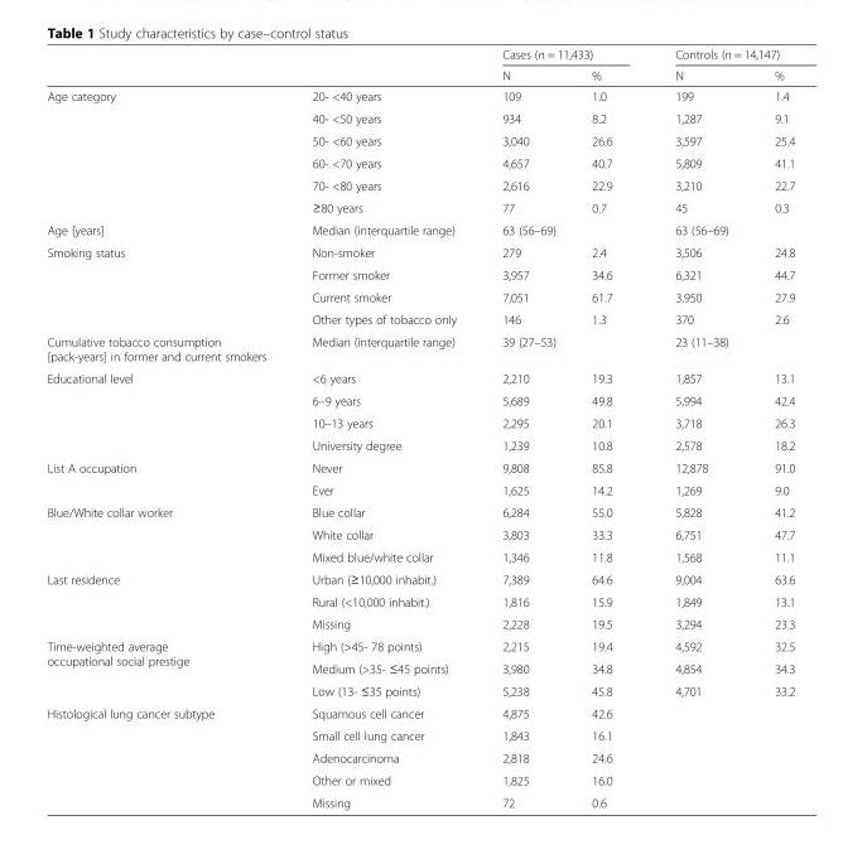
<table><thead><tr><td rowspan="2"></td><td rowspan="2"></td><td colspan="2">Cases (n = 11,433)</td><td colspan="2">Controls (n = 14,147)</td></tr><tr><td>N</td><td>%</td><td>N</td><td>%</td></tr></thead><tbody><tr><td rowspan="6">Age category</td><td>20- &lt;40 years</td><td>109</td><td>1.0</td><td>199</td><td>1.4</td></tr><tr><td>40- &lt;50 years</td><td>934</td><td>8.2</td><td>1,287</td><td>9.1</td></tr><tr><td>50- &lt;60 years</td><td>3,040</td><td>26.6</td><td>3,597</td><td>25.4</td></tr><tr><td>60- &lt;70 years</td><td>4,657</td><td>40.7</td><td>5,809</td><td>41.1</td></tr><tr><td>70- &lt;80 years</td><td>2,616</td><td>22.9</td><td>3,210</td><td>22.7</td></tr><tr><td>≥80 years</td><td>77</td><td>0.7</td><td>45</td><td>0.3</td></tr><tr><td>Age [years]</td><td>Median (interquartile range)</td><td colspan="2">63 (56–69)</td><td colspan="2">63 (56–69)</td></tr><tr><td rowspan="4">Smoking status</td><td>Non-smoker</td><td>279</td><td>2.4</td><td>3,506</td><td>24.8</td></tr><tr><td>Former smoker</td><td>3,957</td><td>34.6</td><td>6,321</td><td>44.7</td></tr><tr><td>Current smoker</td><td>7,051</td><td>61.7</td><td>3,950</td><td>27.9</td></tr><tr><td>Other types of tobacco only</td><td>146</td><td>1.3</td><td>370</td><td>2.6</td></tr><tr><td>Cumulative tobacco consumption [pack-years] in former and current smokers</td><td>Median (interquartile range)</td><td colspan="2">39 (27–53)</td><td colspan="2">23 (11–38)</td></tr><tr><td rowspan="4">Educational level</td><td>&lt;6 years</td><td>2,210</td><td>19.3</td><td>1,857</td><td>13.1</td></tr><tr><td>6–9 years</td><td>5,689</td><td>49.8</td><td>5,994</td><td>42.4</td></tr><tr><td>10–13 years</td><td>2,295</td><td>20.1</td><td>3,718</td><td>26.3</td></tr><tr><td>University degree</td><td>1,239</td><td>10.8</td><td>2,578</td><td>18.2</td></tr><tr><td rowspan="2">List A occupation</td><td>Never</td><td>9,808</td><td>85.8</td><td>12,878</td><td>91.0</td></tr><tr><td>Ever</td><td>1,625</td><td>14.2</td><td>1,269</td><td>9.0</td></tr><tr><td rowspan="3">Blue/White collar worker</td><td>Blue collar</td><td>6,284</td><td>55.0</td><td>5,828</td><td>41.2</td></tr><tr><td>White collar</td><td>3,803</td><td>33.3</td><td>6,751</td><td>47.7</td></tr><tr><td>Mixed blue/white collar</td><td>1,346</td><td>11.8</td><td>1,568</td><td>11.1</td></tr><tr><td rowspan="3">Last residence</td><td>Urban (≥10,000 inhabit.)</td><td>7,389</td><td>64.6</td><td>9,004</td><td>63.6</td></tr><tr><td>Rural (&lt;10,000 inhabit.)</td><td>1,816</td><td>15.9</td><td>1,849</td><td>13.1</td></tr><tr><td>Missing</td><td>2,228</td><td>19.5</td><td>3,294</td><td>23.3</td></tr><tr><td rowspan="3">Time-weighted average occupational social prestige</td><td>High (&gt;45- 78 points)</td><td>2,215</td><td>19.4</td><td>4,592</td><td>32.5</td></tr><tr><td>Medium (&gt;35- ≤45 points)</td><td>3,980</td><td>34.8</td><td>4,854</td><td>34.3</td></tr><tr><td>Low (13- ≤35 points)</td><td>5,238</td><td>45.8</td><td>4,701</td><td>33.2</td></tr><tr><td rowspan="5">Histological lung cancer subtype</td><td>Squamous cell cancer</td><td>4,875</td><td>42.6</td><td></td><td></td></tr><tr><td>Small cell lung cancer</td><td>1,843</td><td>16.1</td><td></td><td></td></tr><tr><td>Adenocarcinoma</td><td>2,818</td><td>24.6</td><td></td><td></td></tr><tr><td>Other or mixed</td><td>1,825</td><td>16.0</td><td></td><td></td></tr><tr><td>Missing</td><td>72</td><td>0.6</td><td></td><td></td></tr></tbody></table>